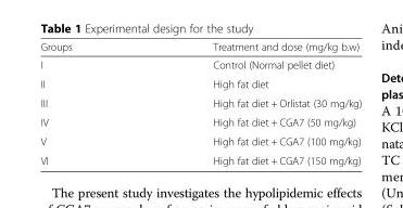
<table><thead><tr><td>Groups</td><td>Treatment and dose (mg/kg b.w)</td></tr></thead><tbody><tr><td>I</td><td>Control (Normal pellet diet)</td></tr><tr><td>II</td><td>High fat diet</td></tr><tr><td>III</td><td>High fat diet + Orlistat (30 mg/kg)</td></tr><tr><td>IV</td><td>High fat diet + CGA7 (50 mg/kg)</td></tr><tr><td>V</td><td>High fat diet + CGA7 (100 mg/kg)</td></tr><tr><td>VI</td><td>High fat diet + CGA7 (150 mg/kg)</td></tr></tbody></table>